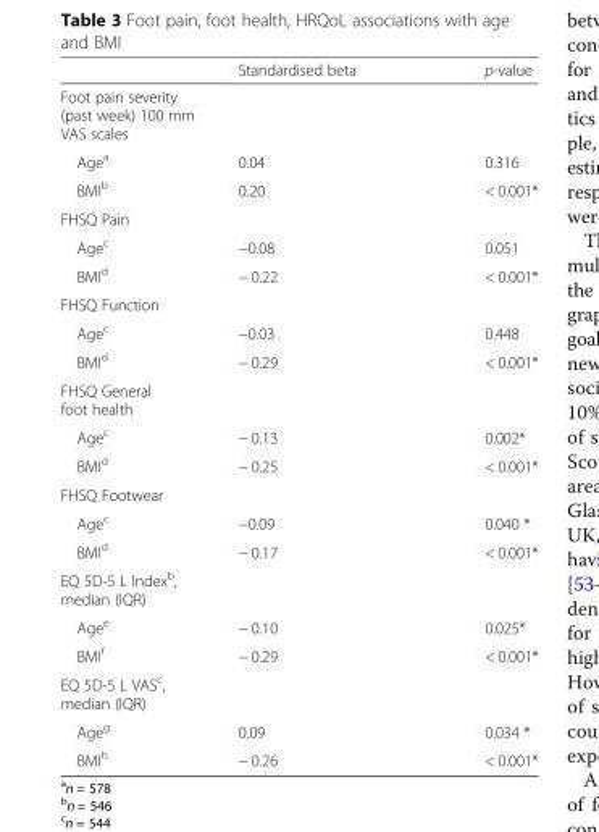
<table><thead><tr><td></td><td>Standardised beta</td><td>p-value</td></tr></thead><tbody><tr><td colspan="3">Foot pain severity (past week) 100 mm VAS scales</td></tr><tr><td>Age<sup>a</sup></td><td>0.04</td><td>0.316</td></tr><tr><td>BMI<sup>b</sup></td><td>0.20</td><td>&lt; 0.001*</td></tr><tr><td colspan="3">FHSQ Pain</td></tr><tr><td>Age<sup>c</sup></td><td>−0.08</td><td>0.051</td></tr><tr><td>BMI<sup>d</sup></td><td>− 0.22</td><td>&lt; 0.001*</td></tr><tr><td colspan="3">FHSQ Function</td></tr><tr><td>Age<sup>c</sup></td><td>−0.03</td><td>0.448</td></tr><tr><td>BMI<sup>d</sup></td><td>− 0.29</td><td>&lt; 0.001*</td></tr><tr><td colspan="3">FHSQ General foot health</td></tr><tr><td>Age<sup>c</sup></td><td>− 0.13</td><td>0.002*</td></tr><tr><td>BMI<sup>d</sup></td><td>− 0.25</td><td>&lt; 0.001*</td></tr><tr><td colspan="3">FHSQ Footwear</td></tr><tr><td>Age<sup>c</sup></td><td>−0.09</td><td>0.040 *</td></tr><tr><td>BMI<sup>d</sup></td><td>− 0.17</td><td>&lt; 0.001*</td></tr><tr><td colspan="3">EQ 5D-5 L Index<sup>b</sup>, median (IQR)</td></tr><tr><td>Age<sup>e</sup></td><td>− 0.10</td><td>0.025*</td></tr><tr><td>BMI<sup>f</sup></td><td>− 0.29</td><td>&lt; 0.001*</td></tr><tr><td colspan="3">EQ 5D-5 L VAS<sup>c</sup>, median (IQR)</td></tr><tr><td>Age<sup>g</sup></td><td>0.09</td><td>0.034 *</td></tr><tr><td>BMI<sup>h</sup></td><td>− 0.26</td><td>&lt; 0.001*</td></tr></tbody></table>